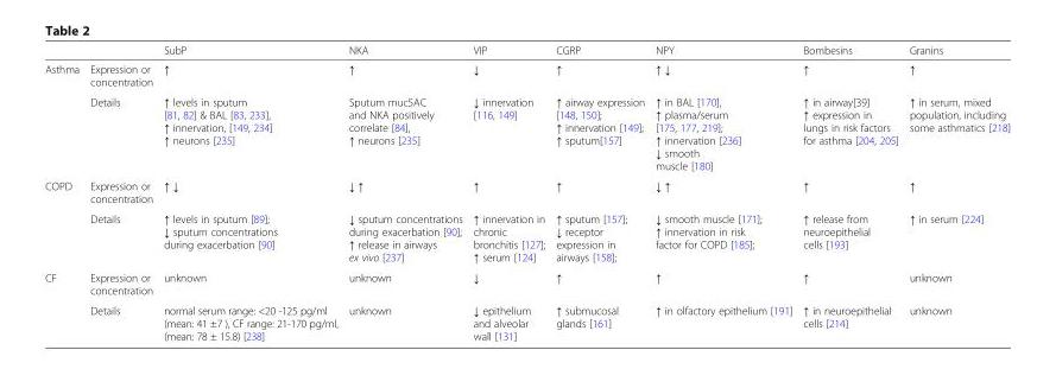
<table><thead><tr><td></td><td></td><td>SubP</td><td>NKA</td><td>VIP</td><td>CGRP</td><td>NPY</td><td>Bombesins</td><td>Granins</td></tr></thead><tbody><tr><td rowspan="2">Asthma</td><td>Expression or concentration</td><td>↑</td><td>↑</td><td>↓</td><td>↑</td><td>↑ ↓</td><td>↑</td><td>↑</td></tr><tr><td>Details</td><td>↑ levels in sputum [81, 82] &amp; BAL [83, 233], ↑ innervation, [149, 234] ↑ neurons [235]</td><td>Sputum muc5AC and NKA positively correlate [84], ↑ neurons [235]</td><td>↓ innervation [116, 149]</td><td>↑ airway expression [148, 150]; ↑ innervation [149]; ↑ sputum[157]</td><td>↑ in BAL [170], ↑ plasma/serum [175, 177, 219]; ↑ innervation [236] ↓ smooth muscle [180]</td><td>↑ in airway[39] ↑ expression in lungs in risk factors for asthma [204, 205]</td><td>↑ in serum, mixed population, including some asthmatics [218]</td></tr><tr><td rowspan="2">COPD</td><td>Expression or concentration</td><td>↑ ↓</td><td>↓ ↑</td><td>↑</td><td>↑</td><td>↓ ↑</td><td>↑</td><td>↑</td></tr><tr><td>Details</td><td>↑ levels in sputum [89]; ↓ sputum concentrations during exacerbation [90]</td><td>↓ sputum concentrations during exacerbation [90]; ↑ release in airways ex vivo [237]</td><td>↑ innervation in chronic bronchitis [127]; ↑ serum [124]</td><td>↑ sputum [157]; ↓ receptor expression in airways [158];</td><td>↓ smooth muscle [171]; ↑ innervation in risk factor for COPD [185];</td><td>↑ release from neuroepithelial cells [193]</td><td>↑ in serum [224]</td></tr><tr><td rowspan="2">CF</td><td>Expression or concentration</td><td>unknown</td><td>unknown</td><td>↓</td><td>↑</td><td>↑</td><td>↑</td><td>unknown</td></tr><tr><td>Details</td><td>normal serum range: &lt;20 -125 pg/ml (mean: 41 ±7 ), CF range: 21-170 pg/ml, (mean: 78 ± 15.8) [238]</td><td>unknown</td><td>↓ epithelium and alveolar wall [131]</td><td>↑ submucosal glands [161]</td><td>↑ in olfactory epithelium [191]</td><td>↑ in neuroepithelial cells [214]</td><td>unknown</td></tr></tbody></table>